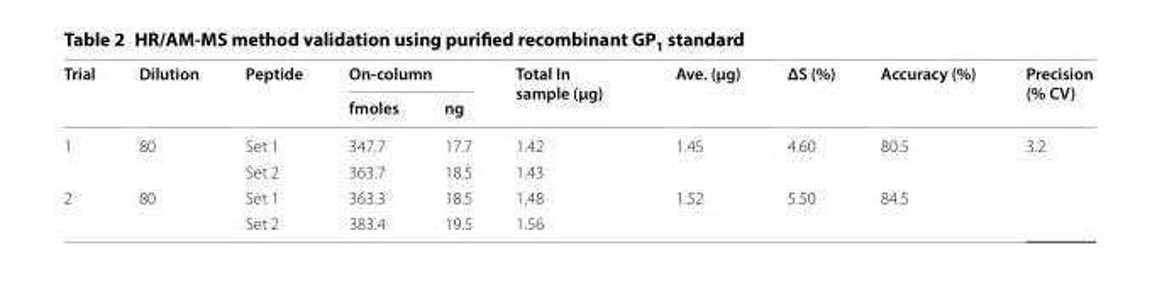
<table><thead><tr><td rowspan="2">Trial</td><td rowspan="2">Dilution</td><td rowspan="2">Peptide</td><td colspan="2">On‑column</td><td rowspan="2">Total In sample (µg)</td><td rowspan="2">Ave. (µg)</td><td rowspan="2">ΔS (%)</td><td rowspan="2">Accuracy (%)</td><td rowspan="2">Precision (% CV)</td></tr><tr><td>fmoles</td><td>ng</td></tr></thead><tbody><tr><td rowspan="2">1</td><td rowspan="2">80</td><td>Set 1</td><td>347.7</td><td>17.7</td><td>1.42</td><td rowspan="2">1.45</td><td rowspan="2">4.60</td><td rowspan="2">80.5</td><td rowspan="4">3.2</td></tr><tr><td>Set 2</td><td>363.7</td><td>18.5</td><td>1.43</td></tr><tr><td rowspan="2">2</td><td rowspan="2">80</td><td>Set 1</td><td>363.3</td><td>18.5</td><td>1.48</td><td rowspan="2">1.52</td><td rowspan="2">5.50</td><td rowspan="2">84.5</td></tr><tr><td>Set 2</td><td>383.4</td><td>19.5</td><td>1.56</td></tr></tbody></table>